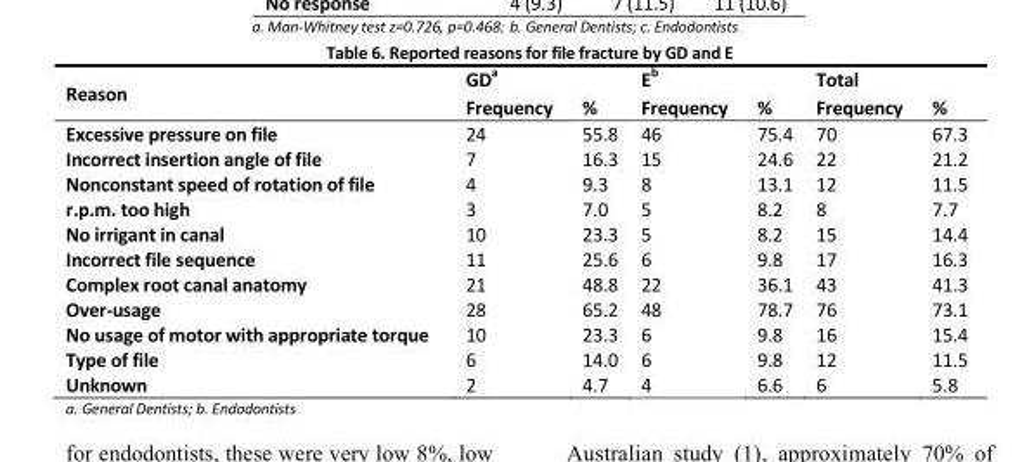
<table><thead><tr><td rowspan="2">Reason</td><td colspan="2">GD<sup>a</sup></td><td colspan="2">Eb</td><td colspan="2">Total</td></tr><tr><td>Frequency</td><td>%</td><td>Frequency</td><td>%</td><td>Frequency</td><td>%</td></tr></thead><tbody><tr><td>Excessive pressure on file</td><td>24</td><td>55.8</td><td>46</td><td>75.4</td><td>70</td><td>67.3</td></tr><tr><td>Incorrect insertion angle of file</td><td>7</td><td>16.3</td><td>15</td><td>24.6</td><td>22</td><td>21.2</td></tr><tr><td>Nonconstant speed of rotation of file</td><td>4</td><td>9.3</td><td>8</td><td>13.1</td><td>12</td><td>11.5</td></tr><tr><td>r.p.m. too high</td><td>3</td><td>7.0</td><td>5</td><td>8.2</td><td>8</td><td>7.7</td></tr><tr><td>No irrigant in canal</td><td>10</td><td>23.3</td><td>5</td><td>8.2</td><td>15</td><td>14.4</td></tr><tr><td>Incorrect file sequence</td><td>11</td><td>25.6</td><td>6</td><td>9.8</td><td>17</td><td>16.3</td></tr><tr><td>Complex root canal anatomy</td><td>21</td><td>48.8</td><td>22</td><td>36.1</td><td>43</td><td>41.3</td></tr><tr><td>Over-usage</td><td>28</td><td>65.2</td><td>48</td><td>78.7</td><td>76</td><td>73.1</td></tr><tr><td>No usage of motor with appropriate torque</td><td>10</td><td>23.3</td><td>6</td><td>9.8</td><td>16</td><td>15.4</td></tr><tr><td>Type of file</td><td>6</td><td>14.0</td><td>6</td><td>9.8</td><td>12</td><td>11.5</td></tr><tr><td>Unknown</td><td>2</td><td>4.7</td><td>4</td><td>6.6</td><td>6</td><td>5.8</td></tr></tbody></table>